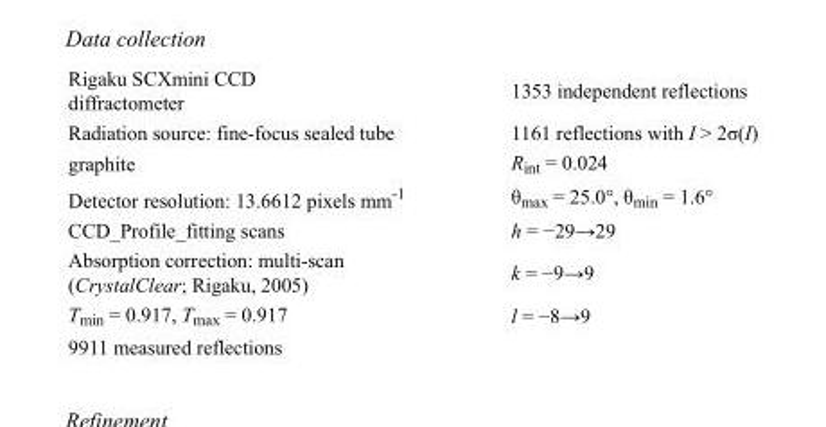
<table><tbody><tr><td>Rigaku SCXmini CCD diffractometer</td><td>1353 independent reflections</td></tr><tr><td>Radiation source: fine-focus sealed tube</td><td>1161 reflections with I &gt; 2σ(I)</td></tr><tr><td>graphite</td><td>R<sub>int</sub> = 0.024</td></tr><tr><td>Detector resolution: 13.6612 pixels mm<sup>-1</sup></td><td>θ<sub>max</sub> = 25.0°, θ<sub>min</sub> = 1.6°</td></tr><tr><td>CCD_Profile_fitting scans</td><td>h = −29→29</td></tr><tr><td>Absorption correction: multi-scan (CrystalClear; Rigaku, 2005)</td><td>k = −9→9</td></tr><tr><td>T<sub>min</sub> = 0.917, T<sub>max</sub> = 0.917</td><td>l = −8→9</td></tr><tr><td>9911 measured reflections</td><td></td></tr></tbody></table>